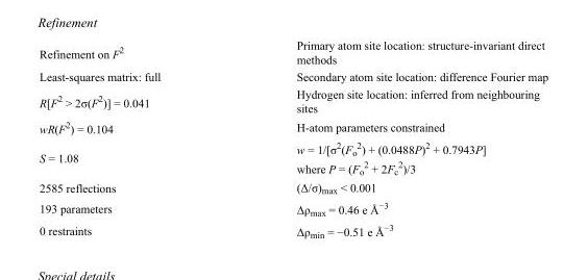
<table><tbody><tr><td>Refinement on F<sup>2</sup></td><td>Primary atom site location: structure-invariant direct methods</td></tr><tr><td>Least-squares matrix: full</td><td>Secondary atom site location: difference Fourier map</td></tr><tr><td>R[F<sup>2</sup> &gt; 2σ(F<sup>2</sup>)] = 0.041</td><td>Hydrogen site location: inferred from neighbouring sites</td></tr><tr><td>wR(F<sup>2</sup>) = 0.104</td><td>H-atom parameters constrained</td></tr><tr><td>S = 1.08</td><td>w = 1/[σ<sup>2</sup>(F<sub>o</sub> <sup>2</sup>) + (0.0488P)<sup>2</sup> + 0.7943P] where P = (F<sub>o</sub> <sup>2</sup> + 2F<sub>c</sub> <sup>2</sup>)/3</td></tr><tr><td>2585 reflections</td><td>(Δ/σ)<sub>max</sub> &lt; 0.001</td></tr><tr><td>193 parameters</td><td>Δρ<sub>max</sub> = 0.46 e Å<sup>−3</sup></td></tr><tr><td>0 restraints</td><td>Δρ<sub>min</sub> = −0.51 e Å<sup>−3</sup></td></tr></tbody></table>